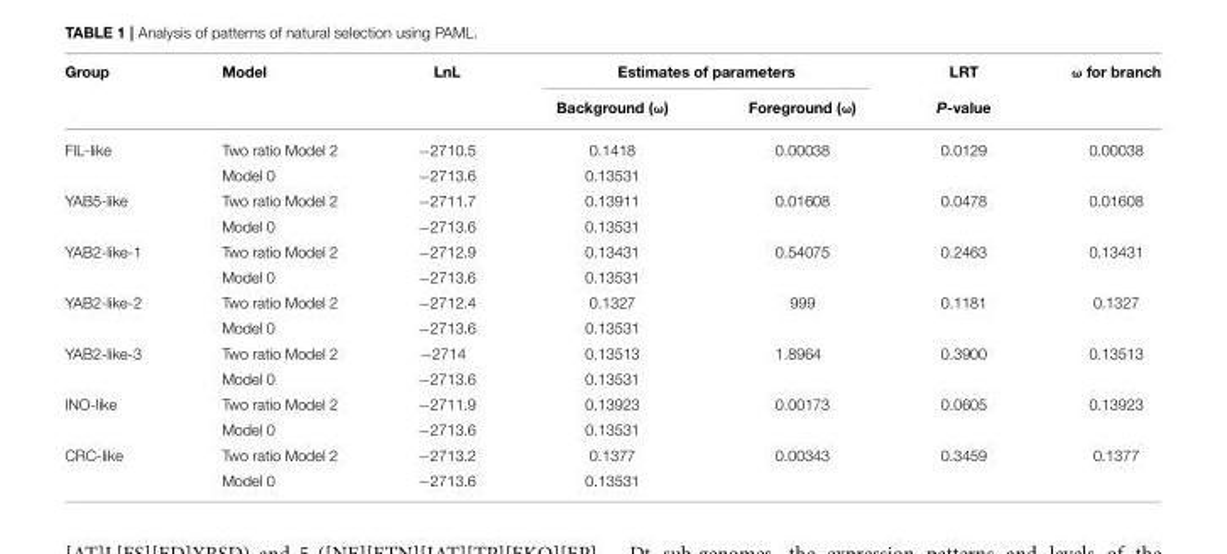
<table><thead><tr><td rowspan="2">Group</td><td rowspan="2">Model</td><td rowspan="2">LnL</td><td colspan="2">Estimates of parameters</td><td rowspan="2">LRT P-value</td><td rowspan="2">ω for branch</td></tr><tr><td>Background (ω)</td><td>Foreground (ω)</td></tr></thead><tbody><tr><td rowspan="2">FIL-like</td><td>Two ratio Model 2</td><td>−2710.5</td><td>0.1418</td><td>0.00038</td><td>0.0129</td><td>0.00038</td></tr><tr><td>Model 0</td><td>−2713.6</td><td>0.13531</td><td></td><td></td><td></td></tr><tr><td rowspan="2">YAB5-like</td><td>Two ratio Model 2</td><td>−2711.7</td><td>0.13911</td><td>0.01608</td><td>0.0478</td><td>0.01608</td></tr><tr><td>Model 0</td><td>−2713.6</td><td>0.13531</td><td></td><td></td><td></td></tr><tr><td rowspan="2">YAB2-like-1</td><td>Two ratio Model 2</td><td>−2712.9</td><td>0.13431</td><td>0.54075</td><td>0.2463</td><td>0.13431</td></tr><tr><td>Model 0</td><td>−2713.6</td><td>0.13531</td><td></td><td></td><td></td></tr><tr><td rowspan="2">YAB2-like-2</td><td>Two ratio Model 2</td><td>−2712.4</td><td>0.1327</td><td>999</td><td>0.1181</td><td>0.1327</td></tr><tr><td>Model 0</td><td>−2713.6</td><td>0.13531</td><td></td><td></td><td></td></tr><tr><td rowspan="2">YAB2-like-3</td><td>Two ratio Model 2</td><td>−2714</td><td>0.13513</td><td>1.8964</td><td>0.3900</td><td>0.13513</td></tr><tr><td>Model 0</td><td>−2713.6</td><td>0.13531</td><td></td><td></td><td></td></tr><tr><td rowspan="2">INO-like</td><td>Two ratio Model 2</td><td>−2711.9</td><td>0.13923</td><td>0.00173</td><td>0.0605</td><td>0.13923</td></tr><tr><td>Model 0</td><td>−2713.6</td><td>0.13531</td><td></td><td></td><td></td></tr><tr><td rowspan="2">CRC-like</td><td>Two ratio Model 2</td><td>−2713.2</td><td>0.1377</td><td>0.00343</td><td>0.3459</td><td>0.1377</td></tr><tr><td>Model 0</td><td>−2713.6</td><td>0.13531</td><td></td><td></td><td></td></tr></tbody></table>